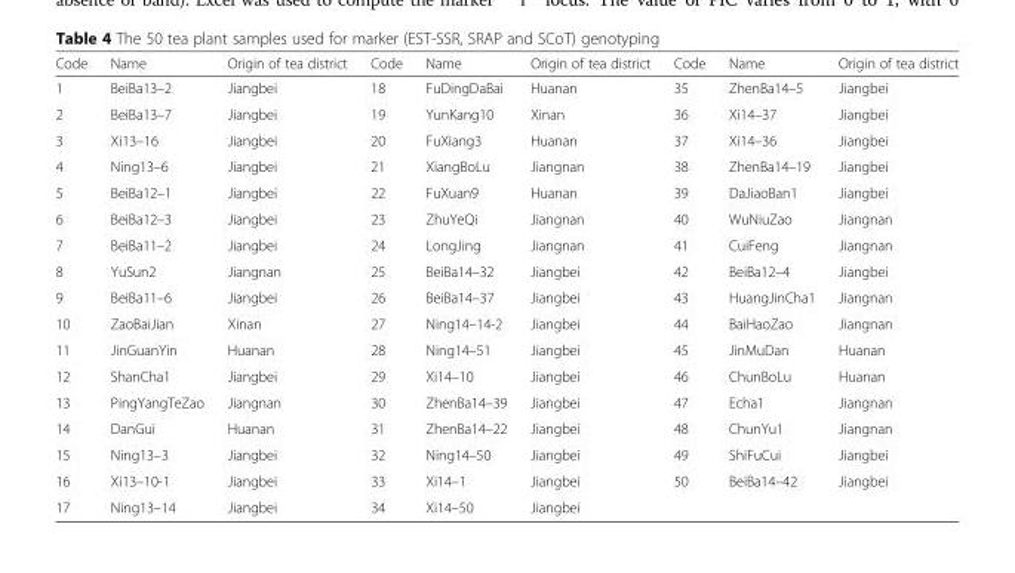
<table><thead><tr><td>Code</td><td>Name</td><td>Origin of tea district</td><td>Code</td><td>Name</td><td>Origin of tea district</td><td>Code</td><td>Name</td><td>Origin of tea district</td></tr></thead><tbody><tr><td>1</td><td>BeiBa13–2</td><td>Jiangbei</td><td>18</td><td>FuDingDaBai</td><td>Huanan</td><td>35</td><td>ZhenBa14–5</td><td>Jiangbei</td></tr><tr><td>2</td><td>BeiBa13–7</td><td>Jiangbei</td><td>19</td><td>YunKang10</td><td>Xinan</td><td>36</td><td>Xi14–37</td><td>Jiangbei</td></tr><tr><td>3</td><td>Xi13–16</td><td>Jiangbei</td><td>20</td><td>FuXiang3</td><td>Huanan</td><td>37</td><td>Xi14–36</td><td>Jiangbei</td></tr><tr><td>4</td><td>Ning13–6</td><td>Jiangbei</td><td>21</td><td>XiangBoLu</td><td>Jiangnan</td><td>38</td><td>ZhenBa14–19</td><td>Jiangbei</td></tr><tr><td>5</td><td>BeiBa12–1</td><td>Jiangbei</td><td>22</td><td>FuXuan9</td><td>Huanan</td><td>39</td><td>DaJiaoBan1</td><td>Jiangbei</td></tr><tr><td>6</td><td>BeiBa12–3</td><td>Jiangbei</td><td>23</td><td>ZhuYeQi</td><td>Jiangnan</td><td>40</td><td>WuNiuZao</td><td>Jiangnan</td></tr><tr><td>7</td><td>BeiBa11–2</td><td>Jiangbei</td><td>24</td><td>LongJing</td><td>Jiangnan</td><td>41</td><td>CuiFeng</td><td>Jiangnan</td></tr><tr><td>8</td><td>YuSun2</td><td>Jiangnan</td><td>25</td><td>BeiBa14–32</td><td>Jiangbei</td><td>42</td><td>BeiBa12–4</td><td>Jiangbei</td></tr><tr><td>9</td><td>BeiBa11–6</td><td>Jiangbei</td><td>26</td><td>BeiBa14–37</td><td>Jiangbei</td><td>43</td><td>HuangJinCha1</td><td>Jiangnan</td></tr><tr><td>10</td><td>ZaoBaiJian</td><td>Xinan</td><td>27</td><td>Ning14–14-2</td><td>Jiangbei</td><td>44</td><td>BaiHaoZao</td><td>Jiangnan</td></tr><tr><td>11</td><td>JinGuanYin</td><td>Huanan</td><td>28</td><td>Ning14–51</td><td>Jiangbei</td><td>45</td><td>JinMuDan</td><td>Huanan</td></tr><tr><td>12</td><td>ShanCha1</td><td>Jiangbei</td><td>29</td><td>Xi14–10</td><td>Jiangbei</td><td>46</td><td>ChunBoLu</td><td>Huanan</td></tr><tr><td>13</td><td>PingYangTeZao</td><td>Jiangnan</td><td>30</td><td>ZhenBa14–39</td><td>Jiangbei</td><td>47</td><td>Echa1</td><td>Jiangnan</td></tr><tr><td>14</td><td>DanGui</td><td>Huanan</td><td>31</td><td>ZhenBa14–22</td><td>Jiangbei</td><td>48</td><td>ChunYu1</td><td>Jiangnan</td></tr><tr><td>15</td><td>Ning13–3</td><td>Jiangbei</td><td>32</td><td>Ning14–50</td><td>Jiangbei</td><td>49</td><td>ShiFuCui</td><td>Jiangbei</td></tr><tr><td>16</td><td>Xi13–10-1</td><td>Jiangbei</td><td>33</td><td>Xi14–1</td><td>Jiangbei</td><td>50</td><td>BeiBa14–42</td><td>Jiangbei</td></tr><tr><td>17</td><td>Ning13–14</td><td>Jiangbei</td><td>34</td><td>Xi14–50</td><td>Jiangbei</td><td></td><td></td><td></td></tr></tbody></table>